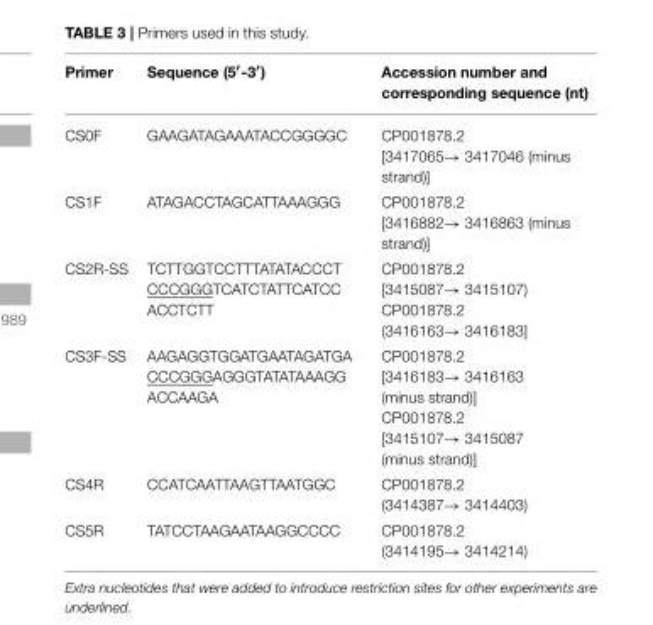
<table><thead><tr><td>Primer</td><td>Sequence (5′-3′)</td><td>Accession number and corresponding sequence (nt)</td></tr></thead><tbody><tr><td>CS0F</td><td>GAAGATAGAAATACCGGGGC</td><td>CP001878.2 [3417065→ 3417046 (minus strand)]</td></tr><tr><td>CS1F</td><td>ATAGACCTAGCATTAAAGGG</td><td>CP001878.2 [3416882→ 3416863 (minus strand)]</td></tr><tr><td>CS2R-SS</td><td>TCTTGGTCCTTTATATACCCT CCCGGGTCATCTATTCATCC ACCTCTT</td><td>CP001878.2 [3415087→ 3415107) CP001878.2 (3416163→ 3416183]</td></tr><tr><td>CS3F-SS</td><td>AAGAGGTGGATGAATAGATGA CCCGGGAGGGTATATAAAGG ACCAAGA</td><td>CP001878.2 [3416183→ 3416163 (minus strand)] CP001878.2 [3415107→ 3415087 (minus strand)]</td></tr><tr><td>CS4R</td><td>CCATCAATTAAGTTAATGGC</td><td>CP001878.2 (3414387→ 3414403)</td></tr><tr><td>CS5R</td><td>TATCCTAAGAATAAGGCCCC</td><td>CP001878.2 (3414195→ 3414214)</td></tr></tbody></table>